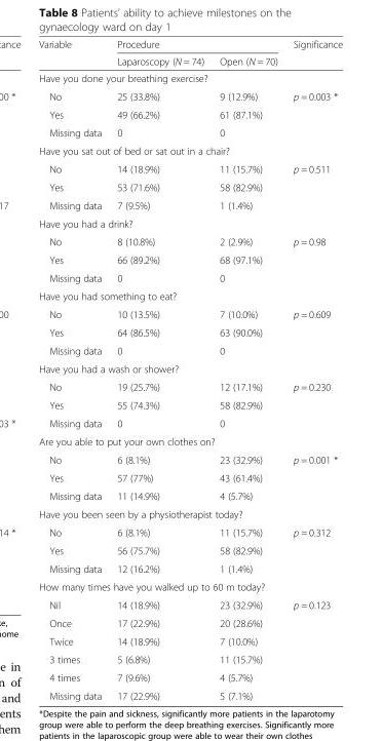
<table><thead><tr><td rowspan="2">Variable</td><td colspan="2">Procedure</td><td rowspan="2">Significance</td></tr><tr><td>Laparoscopy (N = 74)</td><td>Open (N = 70)</td></tr></thead><tbody><tr><td colspan="4">Have you done your breathing exercise?</td></tr><tr><td>No</td><td>25 (33.8%)</td><td>9 (12.9%)</td><td rowspan="3">p = 0.003 *</td></tr><tr><td>Yes</td><td>49 (66.2%)</td><td>61 (87.1%)</td></tr><tr><td>Missing data</td><td>0</td><td>0</td></tr><tr><td colspan="4">Have you sat out of bed or sat out in a chair?</td></tr><tr><td>No</td><td>14 (18.9%)</td><td>11 (15.7%)</td><td rowspan="3">p = 0.511</td></tr><tr><td>Yes</td><td>53 (71.6%)</td><td>58 (82.9%)</td></tr><tr><td>Missing data</td><td>7 (9.5%)</td><td>1 (1.4%)</td></tr><tr><td colspan="4">Have you had a drink?</td></tr><tr><td>No</td><td>8 (10.8%)</td><td>2 (2.9%)</td><td rowspan="3">p = 0.98</td></tr><tr><td>Yes</td><td>66 (89.2%)</td><td>68 (97.1%)</td></tr><tr><td>Missing data</td><td>0</td><td>0</td></tr><tr><td colspan="4">Have you had something to eat?</td></tr><tr><td>No</td><td>10 (13.5%)</td><td>7 (10.0%)</td><td rowspan="3">p = 0.609</td></tr><tr><td>Yes</td><td>64 (86.5%)</td><td>63 (90.0%)</td></tr><tr><td>Missing data</td><td>0</td><td>0</td></tr><tr><td colspan="4">Have you had a wash or shower?</td></tr><tr><td>No</td><td>19 (25.7%)</td><td>12 (17.1%)</td><td rowspan="3">p = 0.230</td></tr><tr><td>Yes</td><td>55 (74.3%)</td><td>58 (82.9%)</td></tr><tr><td>Missing data</td><td>0</td><td>0</td></tr><tr><td colspan="4">Are you able to put your own clothes on?</td></tr><tr><td>No</td><td>6 (8.1%)</td><td>23 (32.9%)</td><td rowspan="3">p = 0.001 *</td></tr><tr><td>Yes</td><td>57 (77%)</td><td>43 (61.4%)</td></tr><tr><td>Missing data</td><td>11 (14.9%)</td><td>4 (5.7%)</td></tr><tr><td colspan="4">Have you been seen by a physiotherapist today?</td></tr><tr><td>No</td><td>6 (8.1%)</td><td>11 (15.7%)</td><td rowspan="3">p = 0.312</td></tr><tr><td>Yes</td><td>56 (75.7%)</td><td>58 (82.9%)</td></tr><tr><td>Missing data</td><td>12 (16.2%)</td><td>1 (1.4%)</td></tr><tr><td colspan="4">How many times have you walked up to 60 m today?</td></tr><tr><td>Nil</td><td>14 (18.9%)</td><td>23 (32.9%)</td><td rowspan="6">p = 0.123</td></tr><tr><td>Once</td><td>17 (22.9%)</td><td>20 (28.6%)</td></tr><tr><td>Twice</td><td>14 (18.9%)</td><td>7 (10.0%)</td></tr><tr><td>3 times</td><td>5 (6.8%)</td><td>11 (15.7%)</td></tr><tr><td>4 times</td><td>7 (9.6%)</td><td>4 (5.7%)</td></tr><tr><td>Missing data</td><td>17 (22.9%)</td><td>5 (7.1%)</td></tr></tbody></table>